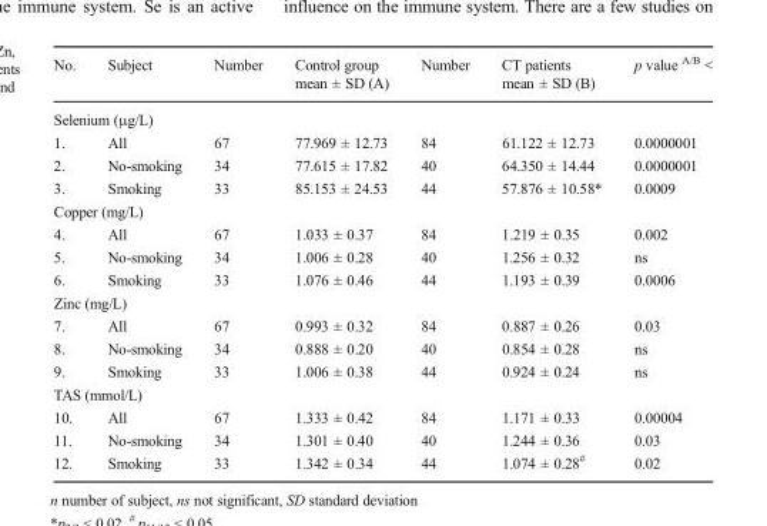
<table><thead><tr><td>No.</td><td>Subject</td><td>Number</td><td>Control group mean ± SD (A)</td><td>Number</td><td>CT patients mean ± SD (B)</td><td>p value <sup>A/B</sup> &lt;</td></tr></thead><tbody><tr><td colspan="7">Selenium (μg/L)</td></tr><tr><td>1.</td><td>All</td><td>67</td><td>77.969 ± 12.73</td><td>84</td><td>61.122 ± 12.73</td><td>0.0000001</td></tr><tr><td>2.</td><td>No-smoking</td><td>34</td><td>77.615 ± 17.82</td><td>40</td><td>64.350 ± 14.44</td><td>0.0000001</td></tr><tr><td>3.</td><td>Smoking</td><td>33</td><td>85.153 ± 24.53</td><td>44</td><td>57.876 ± 10.58*</td><td>0.0009</td></tr><tr><td colspan="7">Copper (mg/L)</td></tr><tr><td>4.</td><td>All</td><td>67</td><td>1.033 ± 0.37</td><td>84</td><td>1.219 ± 0.35</td><td>0.002</td></tr><tr><td>5.</td><td>No-smoking</td><td>34</td><td>1.006 ± 0.28</td><td>40</td><td>1.256 ± 0.32</td><td>ns</td></tr><tr><td>6.</td><td>Smoking</td><td>33</td><td>1.076 ± 0.46</td><td>44</td><td>1.193 ± 0.39</td><td>0.0006</td></tr><tr><td colspan="7">Zinc (mg/L)</td></tr><tr><td>7.</td><td>All</td><td>67</td><td>0.993 ± 0.32</td><td>84</td><td>0.887 ± 0.26</td><td>0.03</td></tr><tr><td>8.</td><td>No-smoking</td><td>34</td><td>0.888 ± 0.20</td><td>40</td><td>0.854 ± 0.28</td><td>ns</td></tr><tr><td>9.</td><td>Smoking</td><td>33</td><td>1.006 ± 0.38</td><td>44</td><td>0.924 ± 0.24</td><td>ns</td></tr><tr><td colspan="7">TAS (mmol/L)</td></tr><tr><td>10.</td><td>All</td><td>67</td><td>1.333 ± 0.42</td><td>84</td><td>1.171 ± 0.33</td><td>0.00004</td></tr><tr><td>11.</td><td>No-smoking</td><td>34</td><td>1.301 ± 0.40</td><td>40</td><td>1.244 ± 0.36</td><td>0.03</td></tr><tr><td>12.</td><td>Smoking</td><td>33</td><td>1.342 ± 0.34</td><td>44</td><td>1.074 ± 0.28<sup>#</sup></td><td>0.02</td></tr></tbody></table>